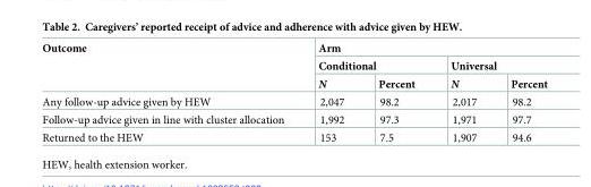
<table><thead><tr><td rowspan="3">Outcome</td><td colspan="4">Arm</td></tr><tr><td colspan="2">Conditional</td><td colspan="2">Universal</td></tr><tr><td>N</td><td>Percent</td><td>N</td><td>Percent</td></tr></thead><tbody><tr><td>Any follow-up advice given by HEW</td><td>2,047</td><td>98.2</td><td>2,017</td><td>98.2</td></tr><tr><td>Follow-up advice given in line with cluster allocation</td><td>1,992</td><td>97.3</td><td>1,971</td><td>97.7</td></tr><tr><td>Returned to the HEW</td><td>153</td><td>7.5</td><td>1,907</td><td>94.6</td></tr></tbody></table>